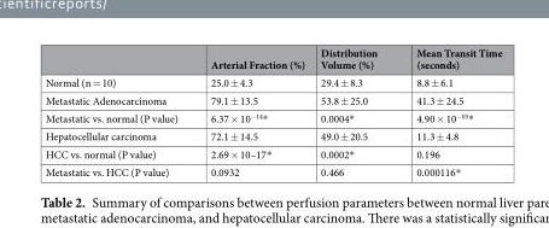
<table><thead><tr><td></td><td>Arterial Fraction (%)</td><td>Distribution Volume (%)</td><td>Mean Transit Time (seconds)</td></tr></thead><tbody><tr><td>Normal (n = 10)</td><td>25.0 ± 4.3</td><td>29.4 ± 8.3</td><td>8.8 ± 6.1</td></tr><tr><td>Metastatic Adenocarcinoma</td><td>79.1 ± 13.5</td><td>53.8 ± 25.0</td><td>41.3 ± 24.5</td></tr><tr><td>Metastatic vs. normal (P value)</td><td>6.37 × 10<sup>−14</sup>*</td><td>0.0004*</td><td>4.90 × 10<sup>−05</sup>*</td></tr><tr><td>Hepatocellular carcinoma</td><td>72.1 ± 14.5</td><td>49.0 ± 20.5</td><td>11.3 ± 4.8</td></tr><tr><td>HCC vs. normal (P value)</td><td>2.69 × 10–17*</td><td>0.0002*</td><td>0.196</td></tr><tr><td>Metastatic vs. HCC (P value)</td><td>0.0932</td><td>0.466</td><td>0.000116*</td></tr></tbody></table>